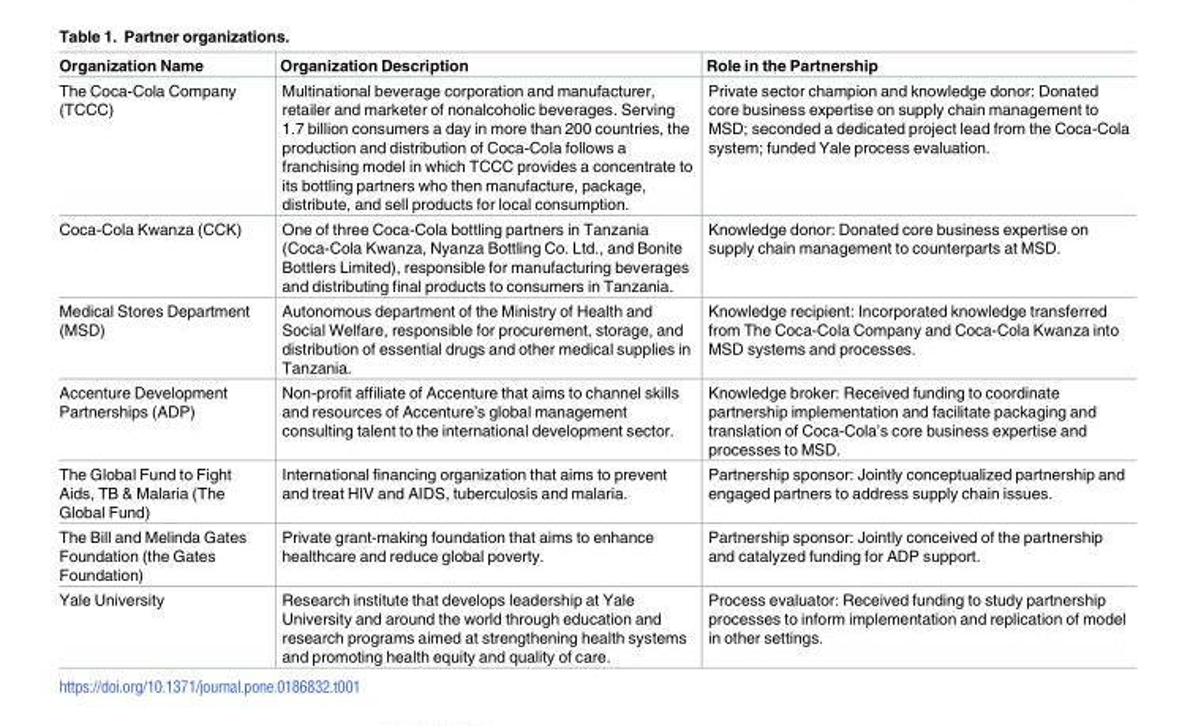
<table><thead><tr><td>Organization Name</td><td>Organization Description</td><td>Role in the Partnership</td></tr></thead><tbody><tr><td>The Coca-Cola Company (TCCC)</td><td>Multinational beverage corporation and manufacturer, retailer and marketer of nonalcoholic beverages. Serving 1.7 billion consumers a day in more than 200 countries, the production and distribution of Coca-Cola follows a franchising model in which TCCC provides a concentrate to its bottling partners who then manufacture, package, distribute, and sell products for local consumption.</td><td>Private sector champion and knowledge donor: Donated core business expertise on supply chain management to MSD; seconded a dedicated project lead from the Coca-Cola system; funded Yale process evaluation.</td></tr><tr><td>Coca-Cola Kwanza (CCK)</td><td>One of three Coca-Cola bottling partners in Tanzania (Coca-Cola Kwanza, Nyanza Bottling Co. Ltd., and Bonite Bottlers Limited), responsible for manufacturing beverages and distributing final products to consumers in Tanzania.</td><td>Knowledge donor: Donated core business expertise on supply chain management to counterparts at MSD.</td></tr><tr><td>Medical Stores Department (MSD)</td><td>Autonomous department of the Ministry of Health and Social Welfare, responsible for procurement, storage, and distribution of essential drugs and other medical supplies in Tanzania.</td><td>Knowledge recipient: Incorporated knowledge transferred from The Coca-Cola Company and Coca-Cola Kwanza into MSD systems and processes.</td></tr><tr><td>Accenture Development Partnerships (ADP)</td><td>Non-profit affiliate of Accenture that aims to channel skills and resources of Accenture’s global management consulting talent to the international development sector.</td><td>Knowledge broker: Received funding to coordinate partnership implementation and facilitate packaging and translation of Coca-Cola’s core business expertise and processes to MSD.</td></tr><tr><td>The Global Fund to Fight Aids, TB &amp; Malaria (The Global Fund)</td><td>International financing organization that aims to prevent and treat HIV and AIDS, tuberculosis and malaria.</td><td>Partnership sponsor: Jointly conceptualized partnership and engaged partners to address supply chain issues.</td></tr><tr><td>The Bill and Melinda Gates Foundation (the Gates Foundation)</td><td>Private grant-making foundation that aims to enhance healthcare and reduce global poverty.</td><td>Partnership sponsor: Jointly conceived of the partnership and catalyzed funding for ADP support.</td></tr><tr><td>Yale University</td><td>Research institute that develops leadership at Yale University and around the world through education and research programs aimed at strengthening health systems and promoting health equity and quality of care.</td><td>Process evaluator: Received funding to study partnership processes to inform implementation and replication of model in other settings.</td></tr></tbody></table>